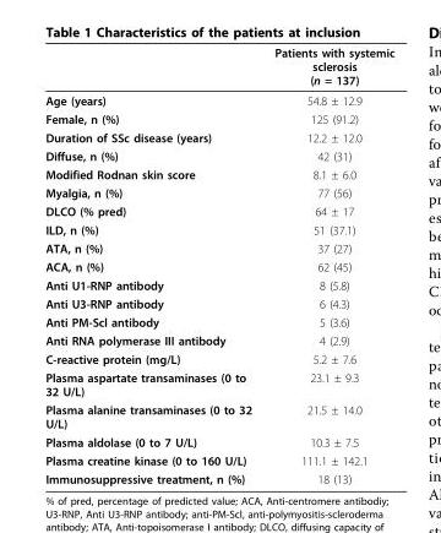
<table><thead><tr><td></td><td>Patients with systemic sclerosis (n = 137)</td></tr></thead><tbody><tr><td>Age (years)</td><td>54.8 ± 12.9</td></tr><tr><td>Female, n (%)</td><td>125 (91.2)</td></tr><tr><td>Duration of SSc disease (years)</td><td>12.2 ± 12.0</td></tr><tr><td>Diffuse, n (%)</td><td>42 (31)</td></tr><tr><td>Modified Rodnan skin score</td><td>8.1 ± 6.0</td></tr><tr><td>Myalgia, n (%)</td><td>77 (56)</td></tr><tr><td>DLCO (% pred)</td><td>64 ± 17</td></tr><tr><td>ILD, n (%)</td><td>51 (37.1)</td></tr><tr><td>ATA, n (%)</td><td>37 (27)</td></tr><tr><td>ACA, n (%)</td><td>62 (45)</td></tr><tr><td>Anti U1-RNP antibody</td><td>8 (5.8)</td></tr><tr><td>Anti U3-RNP antibody</td><td>6 (4.3)</td></tr><tr><td>Anti PM-Scl antibody</td><td>5 (3.6)</td></tr><tr><td>Anti RNA polymerase III antibody</td><td>4 (2.9)</td></tr><tr><td>C-reactive protein (mg/L)</td><td>5.2 ± 7.6</td></tr><tr><td>Plasma aspartate transaminases (0 to 32 U/L)</td><td>23.1 ± 9.3</td></tr><tr><td>Plasma alanine transaminases (0 to 32 U/L)</td><td>21.5 ± 14.0</td></tr><tr><td>Plasma aldolase (0 to 7 U/L)</td><td>10.3 ± 7.5</td></tr><tr><td>Plasma creatine kinase (0 to 160 U/L)</td><td>111.1 ± 142.1</td></tr><tr><td>Immunosuppressive treatment, n (%)</td><td>18 (13)</td></tr></tbody></table>